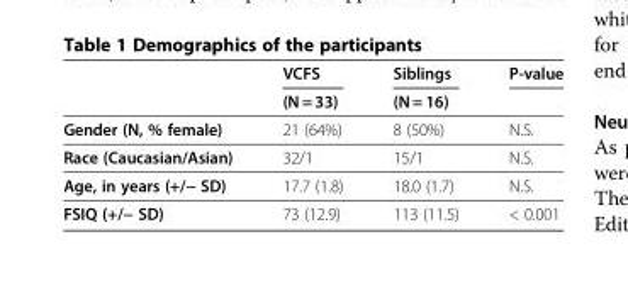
<table><thead><tr><td rowspan="2"></td><td rowspan="2">VCFS (N = 33)</td><td rowspan="2">Siblings (N = 16)</td><td rowspan="2">P-value</td></tr><tr></tr></thead><tbody><tr><td>Gender (N, % female)</td><td>21 (64%)</td><td>8 (50%)</td><td>N.S.</td></tr><tr><td>Race (Caucasian/Asian)</td><td>32/1</td><td>15/1</td><td>N.S.</td></tr><tr><td>Age, in years (+/− SD)</td><td>17.7 (1.8)</td><td>18.0 (1.7)</td><td>N.S.</td></tr><tr><td>FSIQ (+/− SD)</td><td>73 (12.9)</td><td>113 (11.5)</td><td>&lt; 0.001</td></tr></tbody></table>